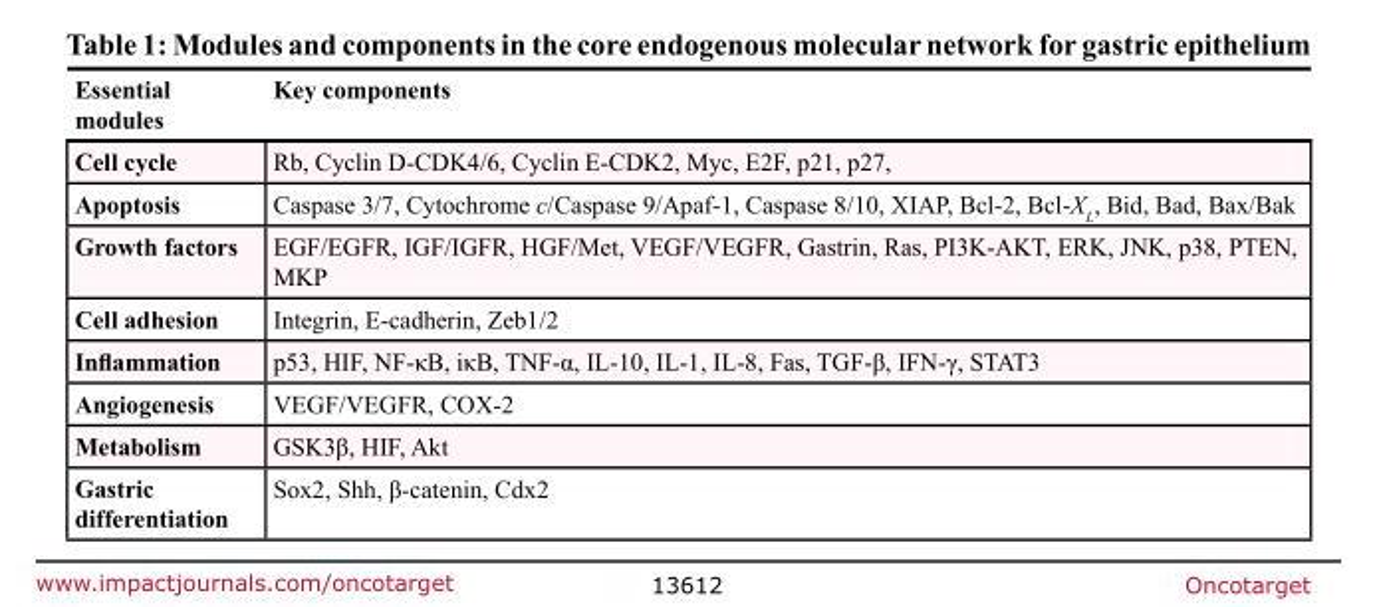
<table><thead><tr><td>Essential modules</td><td>Key components</td></tr></thead><tbody><tr><td>Cell cycle</td><td>Rb, Cyclin D-CDK4/6, Cyclin E-CDK2, Myc, E2F, p21, p27,</td></tr><tr><td>Apoptosis</td><td>Caspase 3/7, Cytochrome c/Caspase 9/Apaf-1, Caspase 8/10, XIAP, Bcl-2, Bcl-X<sub>L</sub>, Bid, Bad, Bax/Bak</td></tr><tr><td>Growth factors</td><td>EGF/EGFR, IGF/IGFR, HGF/Met, VEGF/VEGFR, Gastrin, Ras, PI3K-AKT, ERK, JNK, p38, PTEN, MKP</td></tr><tr><td>Cell adhesion</td><td>Integrin, E-cadherin, Zeb1/2</td></tr><tr><td>Inflammation</td><td>p53, HIF, NF-κB, iκB, TNF-α, IL-10, IL-1, IL-8, Fas, TGF-β, IFN-γ, STAT3</td></tr><tr><td>Angiogenesis</td><td>VEGF/VEGFR, COX-2</td></tr><tr><td>Metabolism</td><td>GSK3β, HIF, Akt</td></tr><tr><td>Gastric differentiation</td><td>Sox2, Shh, β-catenin, Cdx2</td></tr></tbody></table>